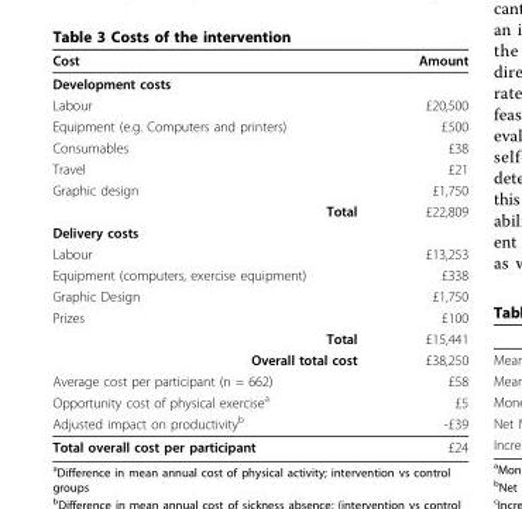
<table><thead><tr><td>Cost</td><td>Amount</td></tr></thead><tbody><tr><td colspan="2">Development costs</td></tr><tr><td>Labour</td><td>£20,500</td></tr><tr><td>Equipment (e.g. Computers and printers)</td><td>£500</td></tr><tr><td>Consumables</td><td>£38</td></tr><tr><td>Travel</td><td>£21</td></tr><tr><td>Graphic design</td><td>£1,750</td></tr><tr><td>Total</td><td>£22,809</td></tr><tr><td colspan="2">Delivery costs</td></tr><tr><td>Labour</td><td>£13,253</td></tr><tr><td>Equipment (computers, exercise equipment)</td><td>£338</td></tr><tr><td>Graphic Design</td><td>£1,750</td></tr><tr><td>Prizes</td><td>£100</td></tr><tr><td>Total</td><td>£15,441</td></tr><tr><td>Overall total cost</td><td>£38,250</td></tr><tr><td>Average cost per participant (n = 662)</td><td>£58</td></tr><tr><td>Opportunity cost of physical exercise<sup>a</sup></td><td>£5</td></tr><tr><td>Adjusted impact on productivity<sup>b</sup></td><td>-£39</td></tr><tr><td>Total overall cost per participant</td><td>£24</td></tr></tbody></table>